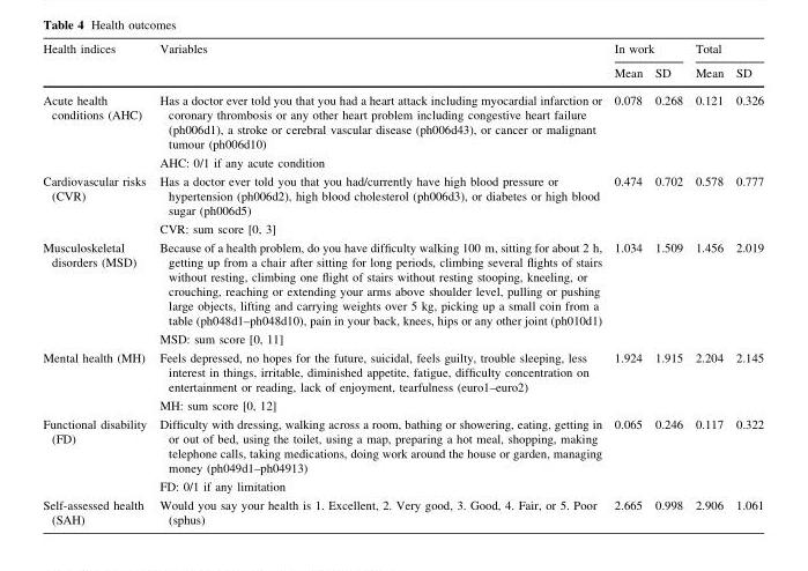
<table><thead><tr><td rowspan="2">Health indices</td><td rowspan="2">Variables</td><td colspan="2">In work</td><td colspan="2">Total</td></tr><tr><td>Mean</td><td>SD</td><td>Mean</td><td>SD</td></tr></thead><tbody><tr><td>Acute health conditions (AHC)</td><td>Has a doctor ever told you that you had a heart attack including myocardial infarction or coronary thrombosis or any other heart problem including congestive heart failure (ph006d1), a stroke or cerebral vascular disease (ph006d43), or cancer or malignant tumour (ph006d10) AHC: 0/1 if any acute condition</td><td>0.078</td><td>0.268</td><td>0.121</td><td>0.326</td></tr><tr><td>Cardiovascular risks (CVR)</td><td>Has a doctor ever told you that you had/currently have high blood pressure or hypertension (ph006d2), high blood cholesterol (ph006d3), or diabetes or high blood sugar (ph006d5) CVR: sum score [0, 3]</td><td>0.474</td><td>0.702</td><td>0.578</td><td>0.777</td></tr><tr><td>Musculoskeletal disorders (MSD)</td><td>Because of a health problem, do you have difficulty walking 100 m, sitting for about 2 h, getting up from a chair after sitting for long periods, climbing several flights of stairs without resting, climbing one flight of stairs without resting stooping, kneeling, or crouching, reaching or extending your arms above shoulder level, pulling or pushing large objects, lifting and carrying weights over 5 kg, picking up a small coin from a table (ph048d1–ph048d10), pain in your back, knees, hips or any other joint (ph010d1) MSD: sum score [0, 11]</td><td>1.034</td><td>1.509</td><td>1.456</td><td>2.019</td></tr><tr><td>Mental health (MH)</td><td>Feels depressed, no hopes for the future, suicidal, feels guilty, trouble sleeping, less interest in things, irritable, diminished appetite, fatigue, difficulty concentration on entertainment or reading, lack of enjoyment, tearfulness (euro1–euro2) MH: sum score [0, 12]</td><td>1.924</td><td>1.915</td><td>2.204</td><td>2.145</td></tr><tr><td>Functional disability (FD)</td><td>Difficulty with dressing, walking across a room, bathing or showering, eating, getting in or out of bed, using the toilet, using a map, preparing a hot meal, shopping, making telephone calls, taking medications, doing work around the house or garden, managing money (ph049d1–ph04913) FD: 0/1 if any limitation</td><td>0.065</td><td>0.246</td><td>0.117</td><td>0.322</td></tr><tr><td>Self-assessed health (SAH)</td><td>Would you say your health is 1. Excellent, 2. Very good, 3. Good, 4. Fair, or 5. Poor (sphus)</td><td>2.665</td><td>0.998</td><td>2.906</td><td>1.061</td></tr></tbody></table>